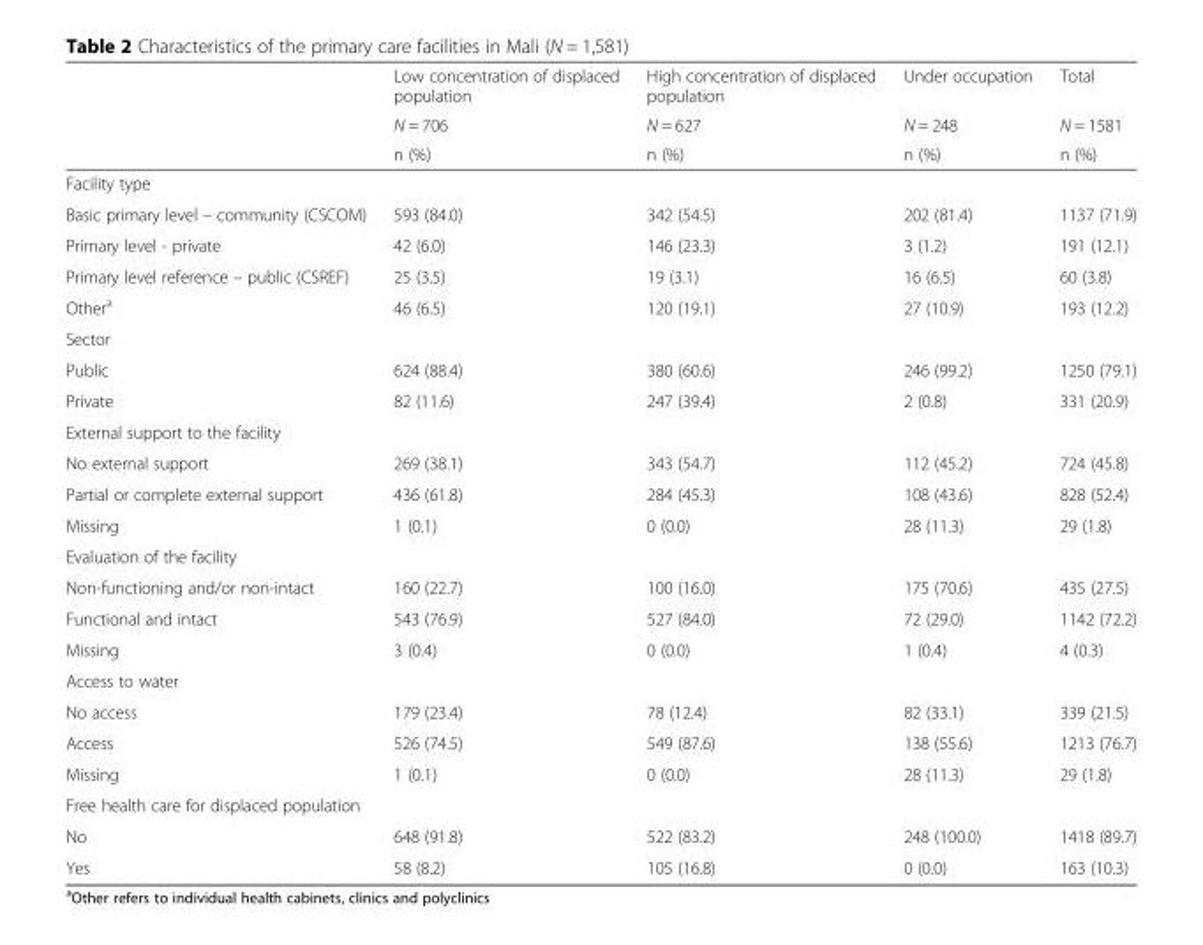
<table><thead><tr><td rowspan="3"></td><td rowspan="3">Low concentration of displaced population N = 706 n (%)</td><td rowspan="3">High concentration of displaced population N = 627 n (%)</td><td rowspan="3">Under occupation N = 248 n (%)</td><td rowspan="3">Total N = 1581 n (%)</td></tr><tr></tr><tr></tr></thead><tbody><tr><td colspan="5">Facility type</td></tr><tr><td>Basic primary level – community (CSCOM)</td><td>593 (84.0)</td><td>342 (54.5)</td><td>202 (81.4)</td><td>1137 (71.9)</td></tr><tr><td>Primary level - private</td><td>42 (6.0)</td><td>146 (23.3)</td><td>3 (1.2)</td><td>191 (12.1)</td></tr><tr><td>Primary level reference – public (CSREF)</td><td>25 (3.5)</td><td>19 (3.1)</td><td>16 (6.5)</td><td>60 (3.8)</td></tr><tr><td>Other<sup>a</sup></td><td>46 (6.5)</td><td>120 (19.1)</td><td>27 (10.9)</td><td>193 (12.2)</td></tr><tr><td colspan="5">Sector</td></tr><tr><td>Public</td><td>624 (88.4)</td><td>380 (60.6)</td><td>246 (99.2)</td><td>1250 (79.1)</td></tr><tr><td>Private</td><td>82 (11.6)</td><td>247 (39.4)</td><td>2 (0.8)</td><td>331 (20.9)</td></tr><tr><td colspan="5">External support to the facility</td></tr><tr><td>No external support</td><td>269 (38.1)</td><td>343 (54.7)</td><td>112 (45.2)</td><td>724 (45.8)</td></tr><tr><td>Partial or complete external support</td><td>436 (61.8)</td><td>284 (45.3)</td><td>108 (43.6)</td><td>828 (52.4)</td></tr><tr><td>Missing</td><td>1 (0.1)</td><td>0 (0.0)</td><td>28 (11.3)</td><td>29 (1.8)</td></tr><tr><td colspan="5">Evaluation of the facility</td></tr><tr><td>Non-functioning and/or non-intact</td><td>160 (22.7)</td><td>100 (16.0)</td><td>175 (70.6)</td><td>435 (27.5)</td></tr><tr><td>Functional and intact</td><td>543 (76.9)</td><td>527 (84.0)</td><td>72 (29.0)</td><td>1142 (72.2)</td></tr><tr><td>Missing</td><td>3 (0.4)</td><td>0 (0.0)</td><td>1 (0.4)</td><td>4 (0.3)</td></tr><tr><td colspan="5">Access to water</td></tr><tr><td>No access</td><td>179 (23.4)</td><td>78 (12.4)</td><td>82 (33.1)</td><td>339 (21.5)</td></tr><tr><td>Access</td><td>526 (74.5)</td><td>549 (87.6)</td><td>138 (55.6)</td><td>1213 (76.7)</td></tr><tr><td>Missing</td><td>1 (0.1)</td><td>0 (0.0)</td><td>28 (11.3)</td><td>29 (1.8)</td></tr><tr><td colspan="5">Free health care for displaced population</td></tr><tr><td>No</td><td>648 (91.8)</td><td>522 (83.2)</td><td>248 (100.0)</td><td>1418 (89.7)</td></tr><tr><td>Yes</td><td>58 (8.2)</td><td>105 (16.8)</td><td>0 (0.0)</td><td>163 (10.3)</td></tr></tbody></table>